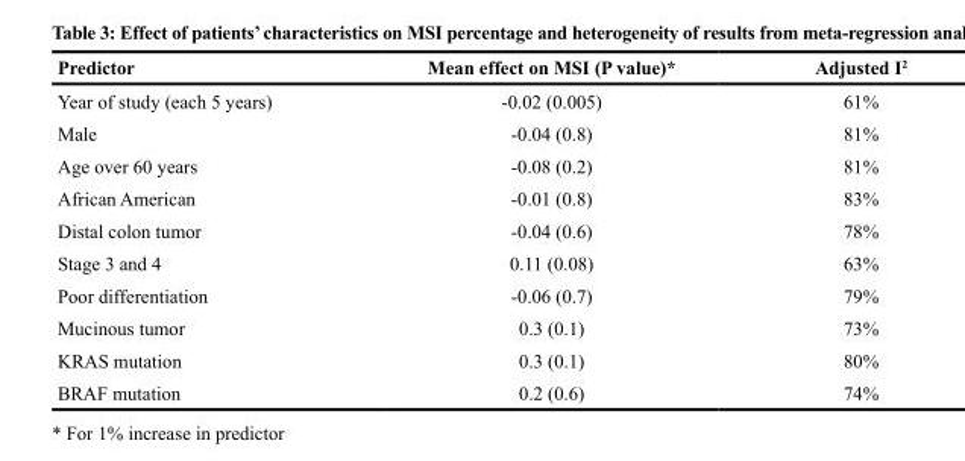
<table><thead><tr><td>Predictor</td><td>Mean effect on MSI (P value)*</td><td>Adjusted I<sup>2</sup></td></tr></thead><tbody><tr><td>Year of study (each 5 years)</td><td>-0.02 (0.005)</td><td>61%</td></tr><tr><td>Male</td><td>-0.04 (0.8)</td><td>81%</td></tr><tr><td>Age over 60 years</td><td>-0.08 (0.2)</td><td>81%</td></tr><tr><td>African American</td><td>-0.01 (0.8)</td><td>83%</td></tr><tr><td>Distal colon tumor</td><td>-0.04 (0.6)</td><td>78%</td></tr><tr><td>Stage 3 and 4</td><td>0.11 (0.08)</td><td>63%</td></tr><tr><td>Poor differentiation</td><td>-0.06 (0.7)</td><td>79%</td></tr><tr><td>Mucinous tumor</td><td>0.3 (0.1)</td><td>73%</td></tr><tr><td>KRAS mutation</td><td>0.3 (0.1)</td><td>80%</td></tr><tr><td>BRAF mutation</td><td>0.2 (0.6)</td><td>74%</td></tr></tbody></table>